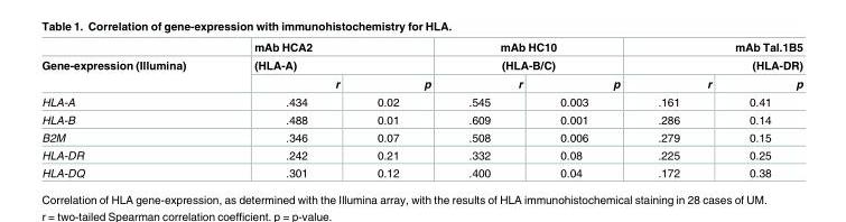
<table><thead><tr><td rowspan="3">Gene-expression (Illumina)</td><td rowspan="2" colspan="2">mAb HCA2 (HLA-A)</td><td rowspan="2" colspan="2">mAb HC10 (HLA-B/C)</td><td rowspan="2" colspan="2">mAb Tal.1B5 (HLA-DR)</td></tr><tr></tr><tr><td>r</td><td>p</td><td>r</td><td>p</td><td>r</td><td>p</td></tr></thead><tbody><tr><td>HLA-A</td><td>.434</td><td>0.02</td><td>.545</td><td>0.003</td><td>.161</td><td>0.41</td></tr><tr><td>HLA-B</td><td>.488</td><td>0.01</td><td>.609</td><td>0.001</td><td>.286</td><td>0.14</td></tr><tr><td>B2M</td><td>.346</td><td>0.07</td><td>.508</td><td>0.006</td><td>.279</td><td>0.15</td></tr><tr><td>HLA-DR</td><td>.242</td><td>0.21</td><td>.332</td><td>0.08</td><td>.225</td><td>0.25</td></tr><tr><td>HLA-DQ</td><td>.301</td><td>0.12</td><td>.400</td><td>0.04</td><td>.172</td><td>0.38</td></tr></tbody></table>